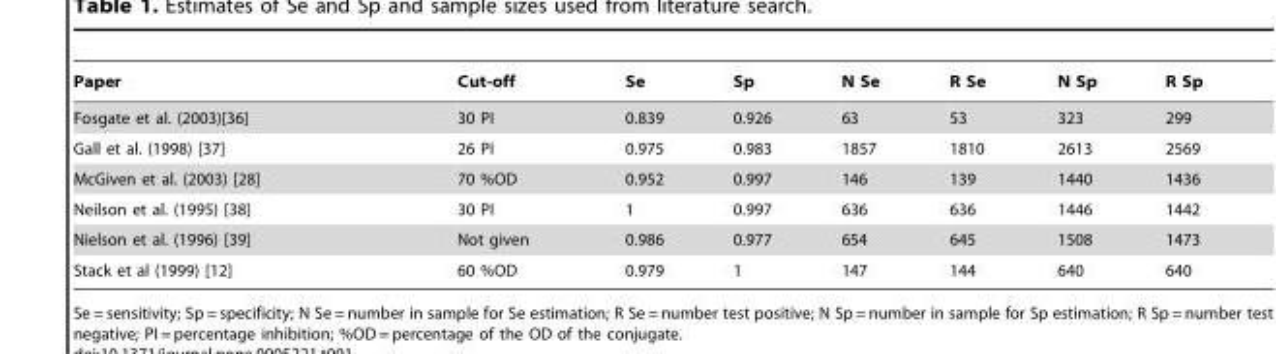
<table><thead><tr><td>Paper</td><td>Cut-off</td><td>Se</td><td>Sp</td><td>N Se</td><td>R Se</td><td>N Sp</td><td>R Sp</td></tr></thead><tbody><tr><td>Fosgate et al. (2003)[36]</td><td>30 PI</td><td>0.839</td><td>0.926</td><td>63</td><td>53</td><td>323</td><td>299</td></tr><tr><td>Gall et al. (1998) [37]</td><td>26 PI</td><td>0.975</td><td>0.983</td><td>1857</td><td>1810</td><td>2613</td><td>2569</td></tr><tr><td>McGiven et al. (2003) [28]</td><td>70 %OD</td><td>0.952</td><td>0.997</td><td>146</td><td>139</td><td>1440</td><td>1436</td></tr><tr><td>Neilson et al. (1995) [38]</td><td>30 PI</td><td>1</td><td>0.997</td><td>636</td><td>636</td><td>1446</td><td>1442</td></tr><tr><td>Nielson et al. (1996) [39]</td><td>Not given</td><td>0.986</td><td>0.977</td><td>654</td><td>645</td><td>1508</td><td>1473</td></tr><tr><td>Stack et al (1999) [12]</td><td>60 %OD</td><td>0.979</td><td>1</td><td>147</td><td>144</td><td>640</td><td>640</td></tr></tbody></table>